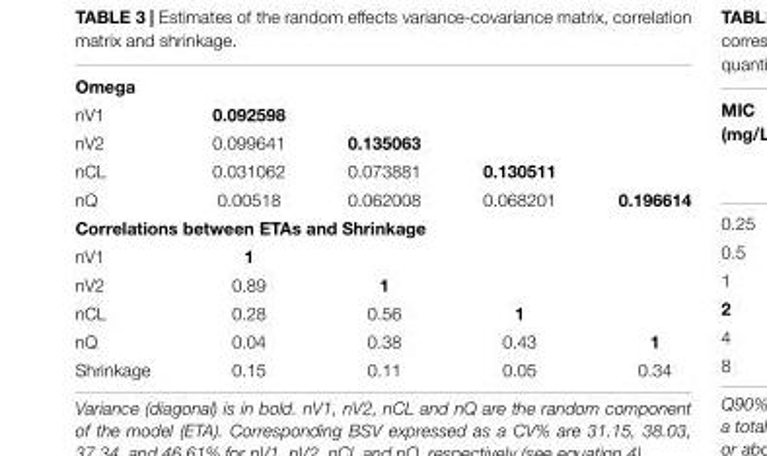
<table><tbody><tr><td colspan="5">Omega</td></tr><tr><td>nV1</td><td>0.092598</td><td></td><td></td><td></td></tr><tr><td>nV2</td><td>0.099641</td><td>0.135063</td><td></td><td></td></tr><tr><td>nCL</td><td>0.031062</td><td>0.073881</td><td>0.130511</td><td></td></tr><tr><td>nQ</td><td>0.00518</td><td>0.062008</td><td>0.068201</td><td>0.196614</td></tr><tr><td colspan="5">Correlations between ETAs and Shrinkage</td></tr><tr><td>nV1</td><td>1</td><td></td><td></td><td></td></tr><tr><td>nV2</td><td>0.89</td><td>1</td><td></td><td></td></tr><tr><td>nCL</td><td>0.28</td><td>0.56</td><td>1</td><td></td></tr><tr><td>nQ</td><td>0.04</td><td>0.38</td><td>0.43</td><td>1</td></tr><tr><td>Shrinkage</td><td>0.15</td><td>0.11</td><td>0.05</td><td>0.34</td></tr></tbody></table>